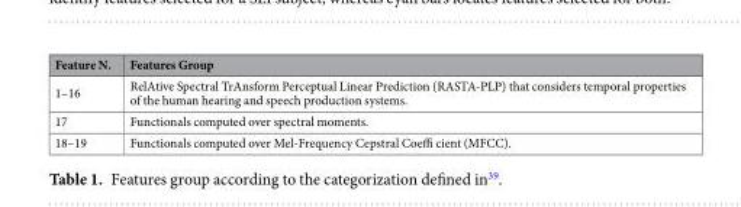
<table><thead><tr><td>Feature N.</td><td>Features Group</td></tr></thead><tbody><tr><td>1–16</td><td>RelAtive Spectral TrAnsform Perceptual Linear Prediction (RASTA-PLP) that considers temporal properties of the human hearing and speech production systems.</td></tr><tr><td>17</td><td>Functionals computed over spectral moments.</td></tr><tr><td>18–19</td><td>Functionals computed over Mel-Frequency Cepstral Coeffi cient (MFCC).</td></tr></tbody></table>